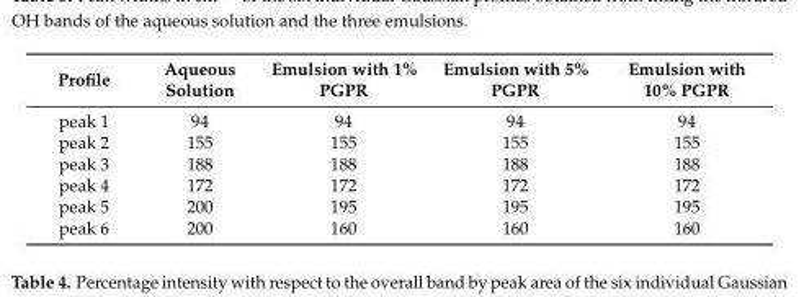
<table><thead><tr><td>Profile</td><td>Aqueous Solution</td><td>Emulsion with 1% PGPR</td><td>Emulsion with 5% PGPR</td><td>Emulsion with 10% PGPR</td></tr></thead><tbody><tr><td>peak 1</td><td>94</td><td>94</td><td>94</td><td>94</td></tr><tr><td>peak 2</td><td>155</td><td>155</td><td>155</td><td>155</td></tr><tr><td>peak 3</td><td>188</td><td>188</td><td>188</td><td>188</td></tr><tr><td>peak 4</td><td>172</td><td>172</td><td>172</td><td>172</td></tr><tr><td>peak 5</td><td>200</td><td>195</td><td>195</td><td>195</td></tr><tr><td>peak 6</td><td>200</td><td>160</td><td>160</td><td>160</td></tr></tbody></table>